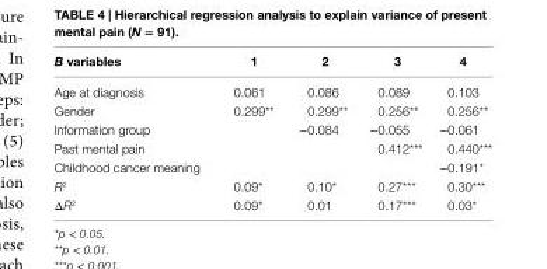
<table><thead><tr><td>B variables</td><td>1</td><td>2</td><td>3</td><td>4</td></tr></thead><tbody><tr><td>Age at diagnosis</td><td>0.061</td><td>0.086</td><td>0.089</td><td>0.103</td></tr><tr><td>Gender</td><td>0.299**</td><td>0.299**</td><td>0.256**</td><td>0.256**</td></tr><tr><td>Information group</td><td></td><td>−0.084</td><td>−0.055</td><td>−0.061</td></tr><tr><td>Past mental pain</td><td></td><td></td><td>0.412***</td><td>0.440***</td></tr><tr><td>Childhood cancer meaning</td><td></td><td></td><td></td><td>−0.191*</td></tr><tr><td>R<sup>2</sup></td><td>0.09*</td><td>0.10*</td><td>0.27***</td><td>0.30***</td></tr><tr><td>ΔR<sup>2</sup></td><td>0.09*</td><td>0.01</td><td>0.17***</td><td>0.03*</td></tr></tbody></table>